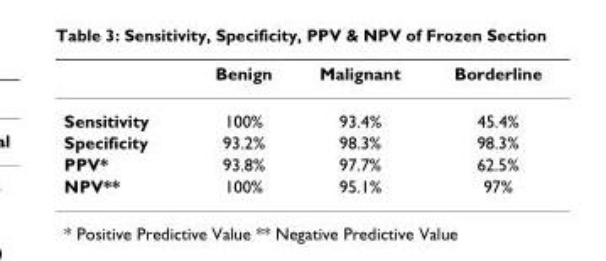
<table><thead><tr><td></td><td>Benign</td><td>Malignant</td><td>Borderline</td></tr></thead><tbody><tr><td>Sensitivity</td><td>100%</td><td>93.4%</td><td>45.4%</td></tr><tr><td>Specificity</td><td>93.2%</td><td>98.3%</td><td>98.3%</td></tr><tr><td>PPV*</td><td>93.8%</td><td>97.7%</td><td>62.5%</td></tr><tr><td>NPV**</td><td>100%</td><td>95.1%</td><td>97%</td></tr></tbody></table>